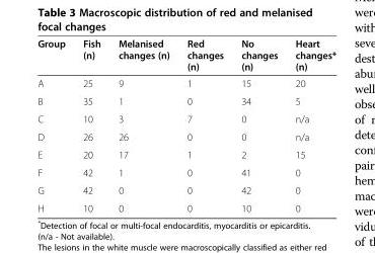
<table><thead><tr><td>Group</td><td>Fish (n)</td><td>Melanised changes (n)</td><td>Red changes (n)</td><td>No changes (n)</td><td>Heart changes* (n)</td></tr></thead><tbody><tr><td>A</td><td>25</td><td>9</td><td>1</td><td>15</td><td>20</td></tr><tr><td>B</td><td>35</td><td>1</td><td>0</td><td>34</td><td>5</td></tr><tr><td>C</td><td>10</td><td>3</td><td>7</td><td>0</td><td>n/a</td></tr><tr><td>D</td><td>26</td><td>26</td><td>0</td><td>0</td><td>n/a</td></tr><tr><td>E</td><td>20</td><td>17</td><td>1</td><td>2</td><td>15</td></tr><tr><td>F</td><td>42</td><td>1</td><td>0</td><td>41</td><td>0</td></tr><tr><td>G</td><td>42</td><td>0</td><td>0</td><td>42</td><td>0</td></tr><tr><td>H</td><td>10</td><td>0</td><td>0</td><td>10</td><td>0</td></tr></tbody></table>